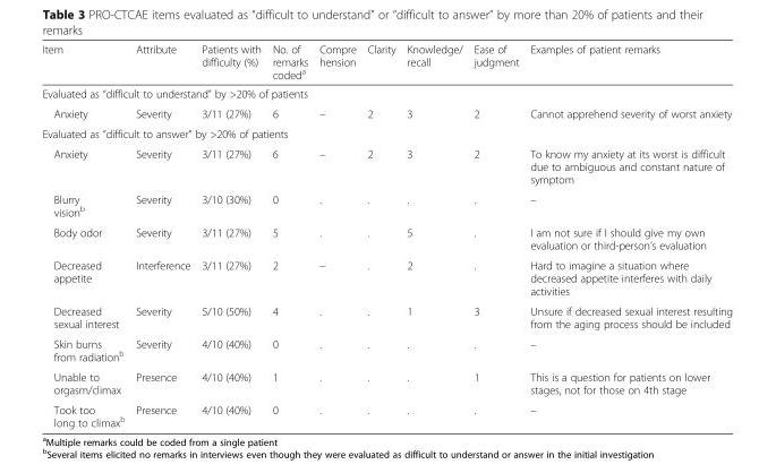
<table><thead><tr><td>Item</td><td>Attribute</td><td>Patients with difficulty (%)</td><td>No. of remarks coded<sup>a</sup></td><td>Compre hension</td><td>Clarity</td><td>Knowledge/ recall</td><td>Ease of judgment</td><td>Examples of patient remarks</td></tr></thead><tbody><tr><td colspan="9">Evaluated as “difficult to understand” by &gt;20% of patients</td></tr><tr><td>Anxiety</td><td>Severity</td><td>3/11 (27%)</td><td>6</td><td>–</td><td>2</td><td>3</td><td>2</td><td>Cannot apprehend severity of worst anxiety</td></tr><tr><td colspan="9">Evaluated as “difficult to answer” by &gt;20% of patients</td></tr><tr><td>Anxiety</td><td>Severity</td><td>3/11 (27%)</td><td>6</td><td>–</td><td>2</td><td>3</td><td>2</td><td>To know my anxiety at its worst is difficult due to ambiguous and constant nature of symptom</td></tr><tr><td>Blurry vision<sup>b</sup></td><td>Severity</td><td>3/10 (30%)</td><td>0</td><td>.</td><td>.</td><td>.</td><td>.</td><td>–</td></tr><tr><td>Body odor</td><td>Severity</td><td>3/11 (27%)</td><td>5</td><td>.</td><td>.</td><td>5</td><td>.</td><td>I am not sure if I should give my own evaluation or third-person’s evaluation</td></tr><tr><td>Decreased appetite</td><td>Interference</td><td>3/11 (27%)</td><td>2</td><td>–</td><td>.</td><td>2</td><td>.</td><td>Hard to imagine a situation where decreased appetite interferes with daily activities</td></tr><tr><td>Decreased sexual interest</td><td>Severity</td><td>5/10 (50%)</td><td>4</td><td>.</td><td>.</td><td>1</td><td>3</td><td>Unsure if decreased sexual interest resulting from the aging process should be included</td></tr><tr><td>Skin burns from radiation<sup>b</sup></td><td>Severity</td><td>4/10 (40%)</td><td>0</td><td>.</td><td>.</td><td>.</td><td>.</td><td>–</td></tr><tr><td>Unable to orgasm/climax</td><td>Presence</td><td>4/10 (40%)</td><td>1</td><td>.</td><td>.</td><td>.</td><td>1</td><td>This is a question for patients on lower stages, not for those on 4th stage</td></tr><tr><td>Took too long to climax<sup>b</sup></td><td>Presence</td><td>4/10 (40%)</td><td>0</td><td>.</td><td>.</td><td>.</td><td>.</td><td>–</td></tr></tbody></table>